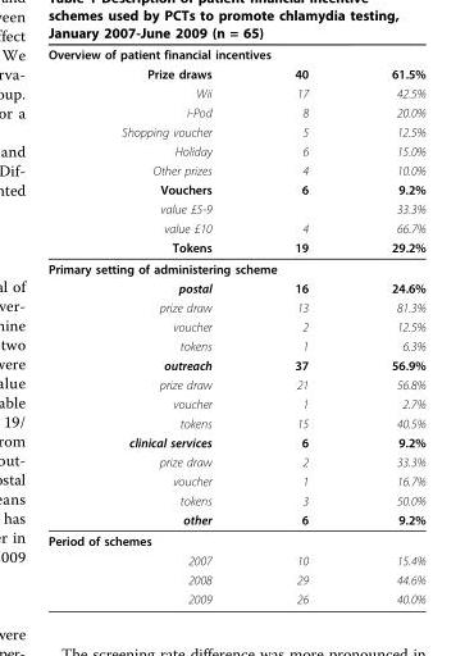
<table><thead><tr><td colspan="3">Overview of patient financial incentives</td></tr><tr><td rowspan="10">Prize draws Wii i-Pod Shopping voucher Holiday Other prizes Vouchers value £5-9 value £10 Tokens</td><td rowspan="10">40 17 8 5 6 4 6 4 19</td><td rowspan="10">61.5% 42.5% 20.0% 12.5% 15.0% 10.0% 9.2% 33.3% 66.7% 29.2%</td></tr><tr></tr><tr></tr><tr></tr><tr></tr><tr></tr><tr></tr><tr></tr><tr></tr><tr></tr></thead><tbody><tr><td colspan="3">Primary setting of administering scheme</td></tr><tr><td>postal</td><td>16</td><td>24.6%</td></tr><tr><td>prize draw</td><td>13</td><td>81.3%</td></tr><tr><td>voucher</td><td>2</td><td>12.5%</td></tr><tr><td>tokens</td><td>1</td><td>6.3%</td></tr><tr><td>outreach</td><td>37</td><td>56.9%</td></tr><tr><td>prize draw</td><td>21</td><td>56.8%</td></tr><tr><td>voucher</td><td>1</td><td>2.7%</td></tr><tr><td>tokens</td><td>15</td><td>40.5%</td></tr><tr><td>clinical services</td><td>6</td><td>9.2%</td></tr><tr><td>prize draw</td><td>2</td><td>33.3%</td></tr><tr><td>voucher</td><td>1</td><td>16.7%</td></tr><tr><td>tokens</td><td>3</td><td>50.0%</td></tr><tr><td>other</td><td>6</td><td>9.2%</td></tr><tr><td colspan="3">Period of schemes</td></tr><tr><td>2007</td><td>10</td><td>15.4%</td></tr><tr><td>2008</td><td>29</td><td>44.6%</td></tr><tr><td>2009</td><td>26</td><td>40.0%</td></tr></tbody></table>